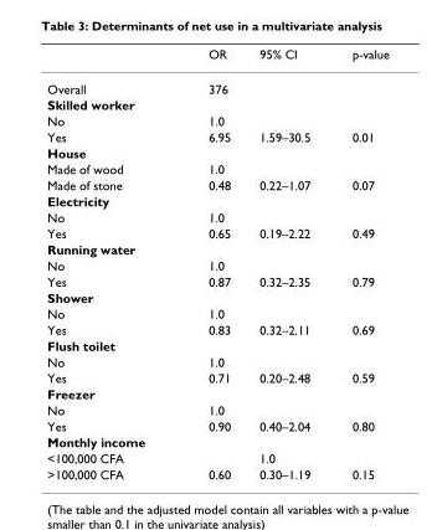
<table><thead><tr><td></td><td>OR</td><td>95% CI</td><td>p-value</td></tr></thead><tbody><tr><td>Overall</td><td>376</td><td></td><td></td></tr><tr><td colspan="4">Skilled worker</td></tr><tr><td>No</td><td>1.0</td><td></td><td></td></tr><tr><td>Yes</td><td>6.95</td><td>1.59–30.5</td><td>0.01</td></tr><tr><td colspan="4">House</td></tr><tr><td>Made of wood</td><td>1.0</td><td></td><td></td></tr><tr><td>Made of stone</td><td>0.48</td><td>0.22–1.07</td><td>0.07</td></tr><tr><td colspan="4">Electricity</td></tr><tr><td>No</td><td>1.0</td><td></td><td></td></tr><tr><td>Yes</td><td>0.65</td><td>0.19–2.22</td><td>0.49</td></tr><tr><td colspan="4">Running water</td></tr><tr><td>No</td><td>1.0</td><td></td><td></td></tr><tr><td>Yes</td><td>0.87</td><td>0.32–2.35</td><td>0.79</td></tr><tr><td colspan="4">Shower</td></tr><tr><td>No</td><td>1.0</td><td></td><td></td></tr><tr><td>Yes</td><td>0.83</td><td>0.32–2.11</td><td>0.69</td></tr><tr><td colspan="4">Flush toilet</td></tr><tr><td>No</td><td>1.0</td><td></td><td></td></tr><tr><td>Yes</td><td>0.71</td><td>0.20–2.48</td><td>0.59</td></tr><tr><td colspan="4">Freezer</td></tr><tr><td>No</td><td>1.0</td><td></td><td></td></tr><tr><td>Yes</td><td>0.90</td><td>0.40–2.04</td><td>0.80</td></tr><tr><td colspan="4">Monthly income</td></tr><tr><td>&lt;100,000 CFA</td><td></td><td>1.0</td><td></td></tr><tr><td>&gt;100,000 CFA</td><td>0.60</td><td>0.30–1.19</td><td>0.15</td></tr></tbody></table>